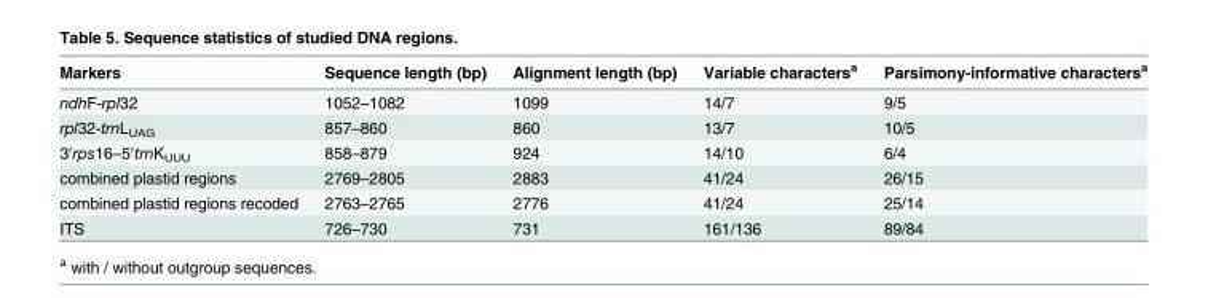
<table><thead><tr><td>Markers</td><td>Sequence length (bp)</td><td>Alignment length (bp)</td><td>Variable characters<sup>a</sup></td><td>Parsimony-informative characters<sup>a</sup></td></tr></thead><tbody><tr><td>ndhF-rpl32</td><td>1052–1082</td><td>1099</td><td>14/7</td><td>9/5</td></tr><tr><td>rpl32-trnL<sub>UAG</sub></td><td>857–860</td><td>860</td><td>13/7</td><td>10/5</td></tr><tr><td>3′rps16–5′trnK<sub>UUU</sub></td><td>858–879</td><td>924</td><td>14/10</td><td>6/4</td></tr><tr><td>combined plastid regions</td><td>2769–2805</td><td>2883</td><td>41/24</td><td>26/15</td></tr><tr><td>combined plastid regions recoded</td><td>2763–2765</td><td>2776</td><td>41/24</td><td>25/14</td></tr><tr><td>ITS</td><td>726–730</td><td>731</td><td>161/136</td><td>89/84</td></tr></tbody></table>